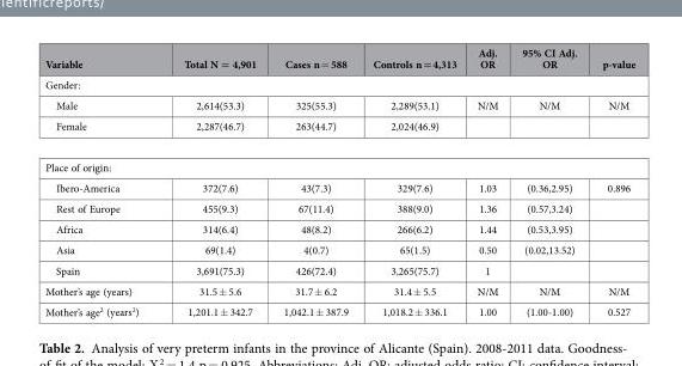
<table><thead><tr><td>Variable</td><td>Total N = 4,901</td><td>Cases n = 588</td><td>Controls n = 4,313</td><td>Adj. OR</td><td>95% CI Adj. OR</td><td>p-value</td></tr></thead><tbody><tr><td colspan="7">Gender:</td></tr><tr><td>Male</td><td>2,614(53.3)</td><td>325(55.3)</td><td>2,289(53.1)</td><td>N/M</td><td>N/M</td><td>N/M</td></tr><tr><td>Female</td><td>2,287(46.7)</td><td>263(44.7)</td><td>2,024(46.9)</td><td></td><td></td><td></td></tr><tr><td colspan="7">Place of origin:</td></tr><tr><td>Ibero-America</td><td>372(7.6)</td><td>43(7.3)</td><td>329(7.6)</td><td>1.03</td><td>(0.36,2.95)</td><td>0.896</td></tr><tr><td>Rest of Europe</td><td>455(9.3)</td><td>67(11.4)</td><td>388(9.0)</td><td>1.36</td><td>(0.57,3.24)</td><td></td></tr><tr><td>Africa</td><td>314(6.4)</td><td>48(8.2)</td><td>266(6.2)</td><td>1.44</td><td>(0.53,3.95)</td><td></td></tr><tr><td>Asia</td><td>69(1.4)</td><td>4(0.7)</td><td>65(1.5)</td><td>0.50</td><td>(0.02,13.52)</td><td></td></tr><tr><td>Spain</td><td>3,691(75.3)</td><td>426(72.4)</td><td>3,265(75.7)</td><td>1</td><td></td><td></td></tr><tr><td>Mother’s age (years)</td><td>31.5 ± 5.6</td><td>31.7 ± 6.2</td><td>31.4 ± 5.5</td><td>N/M</td><td>N/M</td><td>N/M</td></tr><tr><td>Mother’s age<sup>2</sup> (years<sup>2</sup>)</td><td>1,201.1 ± 342.7</td><td>1,042.1 ± 387.9</td><td>1,018.2 ± 336.1</td><td>1.00</td><td>(1.00-1.00)</td><td>0.527</td></tr></tbody></table>